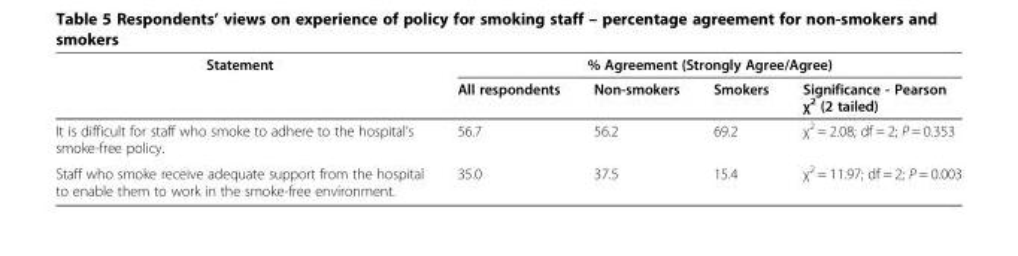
<table><thead><tr><td rowspan="2">Statement</td><td colspan="4">% Agreement (Strongly Agree/Agree)</td></tr><tr><td>All respondents</td><td>Non-smokers</td><td>Smokers</td><td>Significance - Pearson χ<sup>2</sup> (2 tailed)</td></tr></thead><tbody><tr><td>It is difficult for staff who smoke to adhere to the hospital’s smoke-free policy.</td><td>56.7</td><td>56.2</td><td>69.2</td><td>χ<sup>2</sup> = 2.08; df = 2; P = 0.353</td></tr><tr><td>Staff who smoke receive adequate support from the hospital to enable them to work in the smoke-free environment.</td><td>35.0</td><td>37.5</td><td>15.4</td><td>χ<sup>2</sup> = 11.97; df = 2; P = 0.003</td></tr></tbody></table>